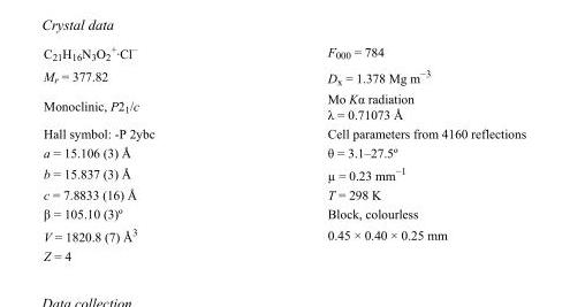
<table><tbody><tr><td>C<sub>21</sub>H<sub>16</sub>N<sub>3</sub>O<sub>2</sub> <sup>+</sup>·Cl<sup>–</sup></td><td>F000 = 784</td></tr><tr><td>M<sub>r</sub> = 377.82</td><td>D<sub>x</sub> = 1.378 Mg m<sup>−3</sup></td></tr><tr><td>Monoclinic, P2<sub>1</sub>/c</td><td>Mo Kα radiation λ = 0.71073 Å</td></tr><tr><td>Hall symbol: -P 2ybc</td><td>Cell parameters from 4160 reflections</td></tr><tr><td>a = 15.106 (3) Å</td><td>θ = 3.1–27.5º</td></tr><tr><td>b = 15.837 (3) Å</td><td>µ = 0.23 mm<sup>−1</sup></td></tr><tr><td>c = 7.8833 (16) Å</td><td>T = 298 K</td></tr><tr><td>β = 105.10 (3)º</td><td>Block, colourless</td></tr><tr><td>V = 1820.8 (7) Å<sup>3</sup></td><td>0.45 × 0.40 × 0.25 mm</td></tr><tr><td>Z = 4</td><td></td></tr></tbody></table>